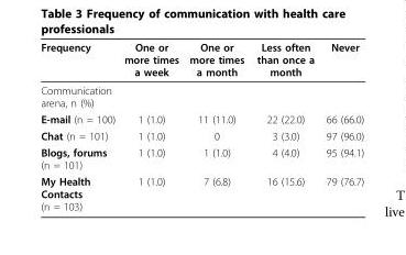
<table><thead><tr><td>Frequency</td><td>One or more times a week</td><td>One or more times a month</td><td>Less often than once a month</td><td>Never</td></tr></thead><tbody><tr><td colspan="5">Communication arena, n (%)</td></tr><tr><td>E-mail (n = 100)</td><td>1 (1.0)</td><td>11 (11.0)</td><td>22 (22.0)</td><td>66 (66.0)</td></tr><tr><td>Chat (n = 101)</td><td>1 (1.0)</td><td>0</td><td>3 (3.0)</td><td>97 (96.0)</td></tr><tr><td>Blogs, forums (n = 101)</td><td>1 (1.0)</td><td>1 (1.0)</td><td>4 (4.0)</td><td>95 (94.1)</td></tr><tr><td>My Health Contacts (n = 103)</td><td>1 (1.0)</td><td>7 (6.8)</td><td>16 (15.6)</td><td>79 (76.7)</td></tr></tbody></table>